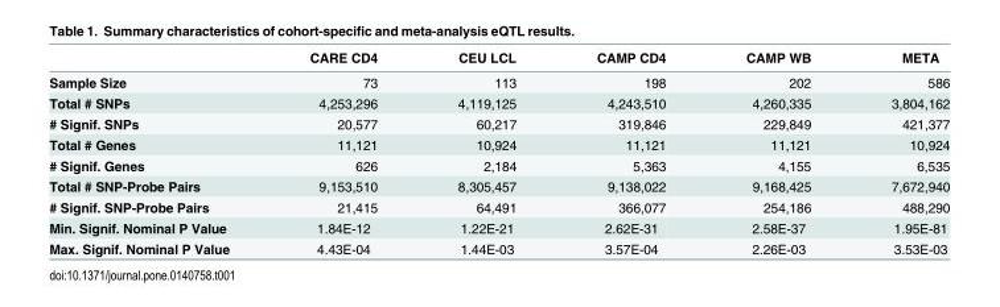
<table><thead><tr><td></td><td>CARE CD4</td><td>CEU LCL</td><td>CAMP CD4</td><td>CAMP WB</td><td>META</td></tr></thead><tbody><tr><td>Sample Size</td><td>73</td><td>113</td><td>198</td><td>202</td><td>586</td></tr><tr><td>Total # SNPs</td><td>4,253,296</td><td>4,119,125</td><td>4,243,510</td><td>4,260,335</td><td>3,804,162</td></tr><tr><td># Signif. SNPs</td><td>20,577</td><td>60,217</td><td>319,846</td><td>229,849</td><td>421,377</td></tr><tr><td>Total # Genes</td><td>11,121</td><td>10,924</td><td>11,121</td><td>11,121</td><td>10,924</td></tr><tr><td># Signif. Genes</td><td>626</td><td>2,184</td><td>5,363</td><td>4,155</td><td>6,535</td></tr><tr><td>Total # SNP-Probe Pairs</td><td>9,153,510</td><td>8,305,457</td><td>9,138,022</td><td>9,168,425</td><td>7,672,940</td></tr><tr><td># Signif. SNP-Probe Pairs</td><td>21,415</td><td>64,491</td><td>366,077</td><td>254,186</td><td>488,290</td></tr><tr><td>Min. Signif. Nominal P Value</td><td>1.84E-12</td><td>1.22E-21</td><td>2.62E-31</td><td>2.58E-37</td><td>1.95E-81</td></tr><tr><td>Max. Signif. Nominal P Value</td><td>4.43E-04</td><td>1.44E-03</td><td>3.57E-04</td><td>2.26E-03</td><td>3.53E-03</td></tr></tbody></table>